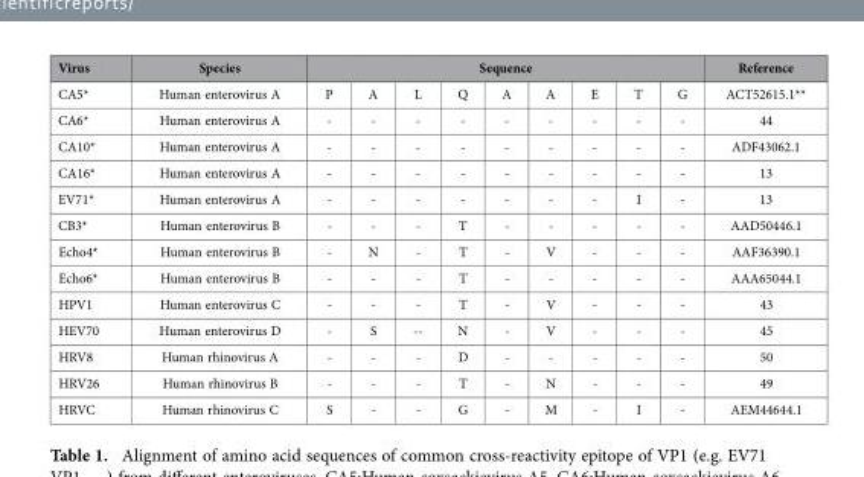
<table><thead><tr><td rowspan="2">Virus CA5*</td><td rowspan="2">Species Human enterovirus A</td><td colspan="9">Sequence</td><td rowspan="2">Reference ACT52615.1**</td></tr><tr><td>P</td><td>A</td><td>L</td><td>Q</td><td>A</td><td>A</td><td>E</td><td>T</td><td>G</td></tr></thead><tbody><tr><td>CA6*</td><td>Human enterovirus A</td><td>-</td><td>-</td><td>-</td><td>-</td><td>-</td><td>-</td><td>-</td><td>-</td><td>-</td><td>44</td></tr><tr><td>CA10*</td><td>Human enterovirus A</td><td>-</td><td>-</td><td>-</td><td>-</td><td>-</td><td>-</td><td>-</td><td>-</td><td>-</td><td>ADF43062.1</td></tr><tr><td>CA16*</td><td>Human enterovirus A</td><td>-</td><td>-</td><td>-</td><td>-</td><td>-</td><td>-</td><td>-</td><td>-</td><td>-</td><td>13</td></tr><tr><td>EV71*</td><td>Human enterovirus A</td><td>-</td><td>-</td><td>-</td><td>-</td><td>-</td><td>-</td><td>-</td><td>I</td><td>-</td><td>13</td></tr><tr><td>CB3*</td><td>Human enterovirus B</td><td>-</td><td>-</td><td>-</td><td>T</td><td>-</td><td>-</td><td>-</td><td>-</td><td>-</td><td>AAD50446.1</td></tr><tr><td>Echo4*</td><td>Human enterovirus B</td><td>-</td><td>N</td><td>-</td><td>T</td><td>-</td><td>V</td><td>-</td><td>-</td><td>-</td><td>AAF36390.1</td></tr><tr><td>Echo6*</td><td>Human enterovirus B</td><td>-</td><td>-</td><td>-</td><td>T</td><td>-</td><td>-</td><td>-</td><td>-</td><td>-</td><td>AAA65044.1</td></tr><tr><td>HPV1</td><td>Human enterovirus C</td><td>-</td><td>-</td><td>-</td><td>T</td><td>-</td><td>V</td><td>-</td><td>-</td><td>-</td><td>43</td></tr><tr><td>HEV70</td><td>Human enterovirus D</td><td>-</td><td>S</td><td>--</td><td>N</td><td>-</td><td>V</td><td>-</td><td>-</td><td>-</td><td>45</td></tr><tr><td>HRV8</td><td>Human rhinovirus A</td><td>-</td><td>-</td><td>-</td><td>D</td><td>-</td><td>-</td><td>-</td><td>-</td><td>-</td><td>50</td></tr><tr><td>HRV26</td><td>Human rhinovirus B</td><td>-</td><td>-</td><td>-</td><td>T</td><td>-</td><td>N</td><td>-</td><td>-</td><td>-</td><td>49</td></tr><tr><td>HRVC</td><td>Human rhinovirus C</td><td>S</td><td>-</td><td>-</td><td>G</td><td>-</td><td>M</td><td>-</td><td>I</td><td>-</td><td>AEM44644.1</td></tr></tbody></table>